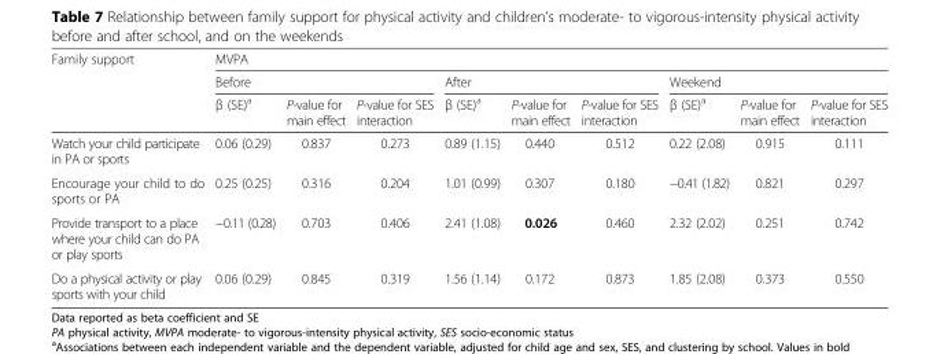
<table><thead><tr><td rowspan="3">Family support</td><td colspan="9">MVPA</td></tr><tr><td colspan="3">Before</td><td colspan="3">After</td><td colspan="3">Weekend</td></tr><tr><td>β (SE)<sup>a</sup></td><td>P-value for main effect</td><td>P-value for SES interaction</td><td>β (SE)<sup>a</sup></td><td>P-value for main effect</td><td>P-value for SES interaction</td><td>β (SE)<sup>a</sup></td><td>P-value for main effect</td><td>P-value for SES interaction</td></tr></thead><tbody><tr><td>Watch your child participate in PA or sports</td><td>0.06 (0.29)</td><td>0.837</td><td>0.273</td><td>0.89 (1.15)</td><td>0.440</td><td>0.512</td><td>0.22 (2.08)</td><td>0.915</td><td>0.111</td></tr><tr><td>Encourage your child to do sports or PA</td><td>0.25 (0.25)</td><td>0.316</td><td>0.204</td><td>1.01 (0.99)</td><td>0.307</td><td>0.180</td><td>−0.41 (1.82)</td><td>0.821</td><td>0.297</td></tr><tr><td>Provide transport to a place where your child can do PA or play sports</td><td>−0.11 (0.28)</td><td>0.703</td><td>0.406</td><td>2.41 (1.08)</td><td>0.026</td><td>0.460</td><td>2.32 (2.02)</td><td>0.251</td><td>0.742</td></tr><tr><td>Do a physical activity or play sports with your child</td><td>0.06 (0.29)</td><td>0.845</td><td>0.319</td><td>1.56 (1.14)</td><td>0.172</td><td>0.873</td><td>1.85 (2.08)</td><td>0.373</td><td>0.550</td></tr></tbody></table>